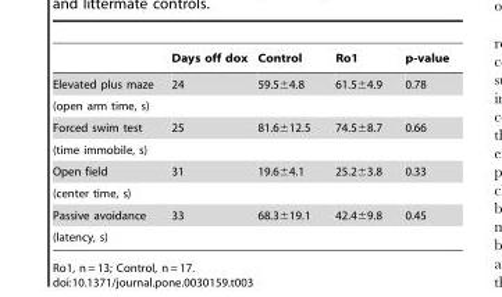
<table><thead><tr><td></td><td>Days off dox</td><td>Control</td><td>Ro1</td><td>p-value</td></tr></thead><tbody><tr><td>Elevated plus maze</td><td>24</td><td>59.5±4.8</td><td>61.5±4.9</td><td>0.78</td></tr><tr><td colspan="5">(open arm time, s)</td></tr><tr><td>Forced swim test</td><td>25</td><td>81.6±12.5</td><td>74.5±8.7</td><td>0.66</td></tr><tr><td colspan="5">(time immobile, s)</td></tr><tr><td>Open field</td><td>31</td><td>19.6±4.1</td><td>25.2±3.8</td><td>0.33</td></tr><tr><td colspan="5">(center time, s)</td></tr><tr><td>Passive avoidance</td><td>33</td><td>68.3±19.1</td><td>42.4±9.8</td><td>0.45</td></tr><tr><td>(latency, s)</td><td></td><td></td><td></td><td></td></tr></tbody></table>